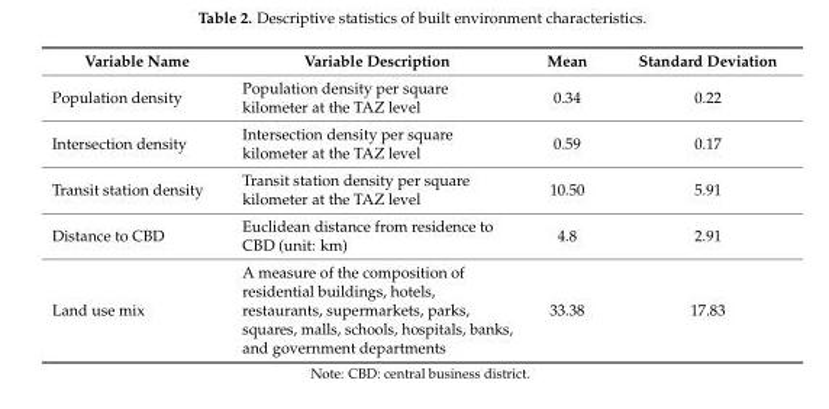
<table><thead><tr><td>Variable Name</td><td>Variable Description</td><td>Mean</td><td>Standard Deviation</td></tr></thead><tbody><tr><td>Population density</td><td>Population density per square kilometer at the TAZ level</td><td>0.34</td><td>0.22</td></tr><tr><td>Intersection density</td><td>Intersection density per square kilometer at the TAZ level</td><td>0.59</td><td>0.17</td></tr><tr><td>Transit station density</td><td>Transit station density per square kilometer at the TAZ level</td><td>10.50</td><td>5.91</td></tr><tr><td>Distance to CBD</td><td>Euclidean distance from residence to CBD (unit: km)</td><td>4.8</td><td>2.91</td></tr><tr><td>Land use mix</td><td>A measure of the composition of residential buildings, hotels, restaurants, supermarkets, parks, squares, malls, schools, hospitals, banks, and government departments</td><td>33.38</td><td>17.83</td></tr></tbody></table>